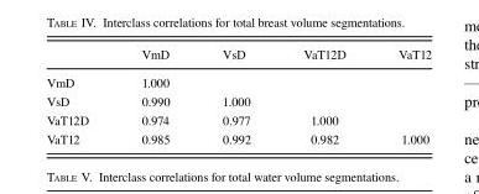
<table><thead><tr><td></td><td>VmD</td><td>VsD</td><td>VaT12D</td><td>VaT12</td></tr></thead><tbody><tr><td>VmD</td><td>1.000</td><td></td><td></td><td></td></tr><tr><td>VsD</td><td>0.990</td><td>1.000</td><td></td><td></td></tr><tr><td>VaT12D</td><td>0.974</td><td>0.977</td><td>1.000</td><td></td></tr><tr><td>VaT12</td><td>0.985</td><td>0.992</td><td>0.982</td><td>1.000</td></tr></tbody></table>